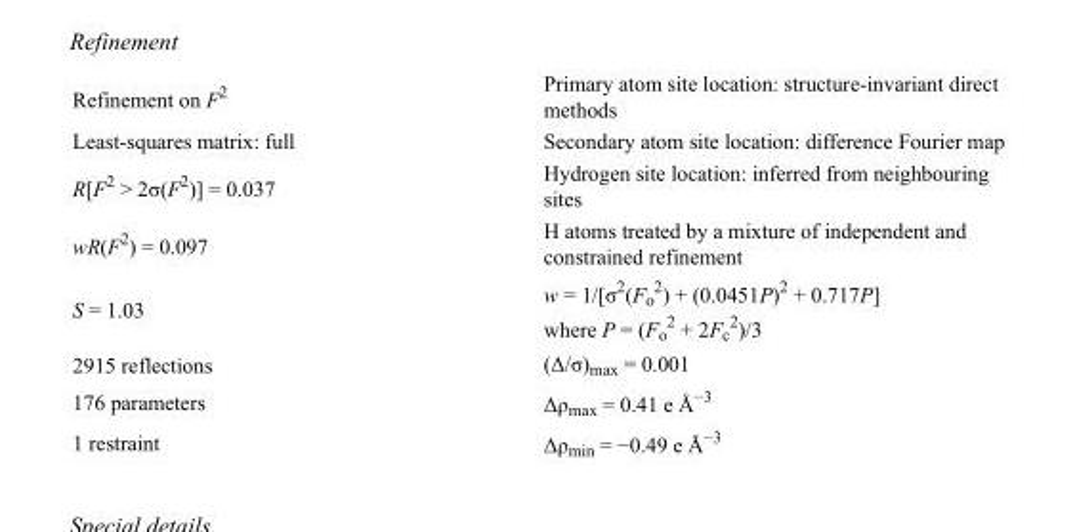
<table><tbody><tr><td>Refinement on F<sup>2</sup></td><td>Primary atom site location: structure-invariant direct methods</td></tr><tr><td>Least-squares matrix: full</td><td>Secondary atom site location: difference Fourier map</td></tr><tr><td>R[F<sup>2</sup> &gt; 2σ(F<sup>2</sup>)] = 0.037</td><td>Hydrogen site location: inferred from neighbouring sites</td></tr><tr><td>wR(F<sup>2</sup>) = 0.097</td><td>H atoms treated by a mixture of independent and constrained refinement</td></tr><tr><td>S = 1.03</td><td>w = 1/[σ<sup>2</sup>(F<sub>o</sub> <sup>2</sup>) + (0.0451P)<sup>2</sup> + 0.717P] where P = (F<sub>o</sub> <sup>2</sup> + 2F<sub>c</sub> <sup>2</sup>)/3</td></tr><tr><td>2915 reflections</td><td>(Δ/σ)<sub>max</sub> = 0.001</td></tr><tr><td>176 parameters</td><td>Δρ<sub>max</sub> = 0.41 e Å<sup>−3</sup></td></tr><tr><td>1 restraint</td><td>Δρ<sub>min</sub> = −0.49 e Å<sup>−3</sup></td></tr></tbody></table>